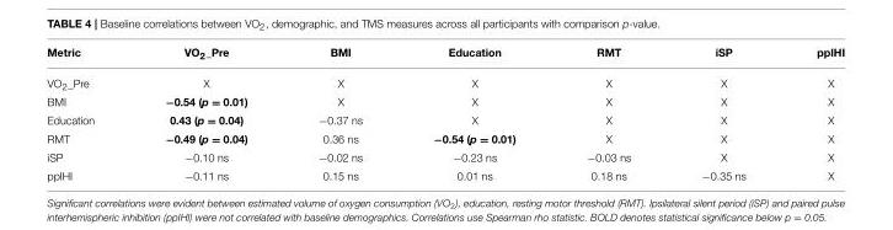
<table><thead><tr><td>Metric</td><td>VO2_Pre</td><td>BMI</td><td>Education</td><td>RMT</td><td>iSP</td><td>ppIHI</td></tr></thead><tbody><tr><td>VO2_Pre</td><td>X</td><td>X</td><td>X</td><td>X</td><td>X</td><td>X</td></tr><tr><td>BMI</td><td>−0.54 (p = 0.01)</td><td>X</td><td>X</td><td>X</td><td>X</td><td>X</td></tr><tr><td>Education</td><td>0.43 (p = 0.04)</td><td>−0.37 ns</td><td>X</td><td>X</td><td>X</td><td>X</td></tr><tr><td>RMT</td><td>−0.49 (p = 0.04)</td><td>0.36 ns</td><td>−0.54 (p = 0.01)</td><td>X</td><td>X</td><td>X</td></tr><tr><td>iSP</td><td>−0.10 ns</td><td>−0.02 ns</td><td>−0.23 ns</td><td>−0.03 ns</td><td>X</td><td>X</td></tr><tr><td>ppIHI</td><td>−0.11 ns</td><td>0.15 ns</td><td>0.01 ns</td><td>0.18 ns</td><td>−0.35 ns</td><td>X</td></tr></tbody></table>